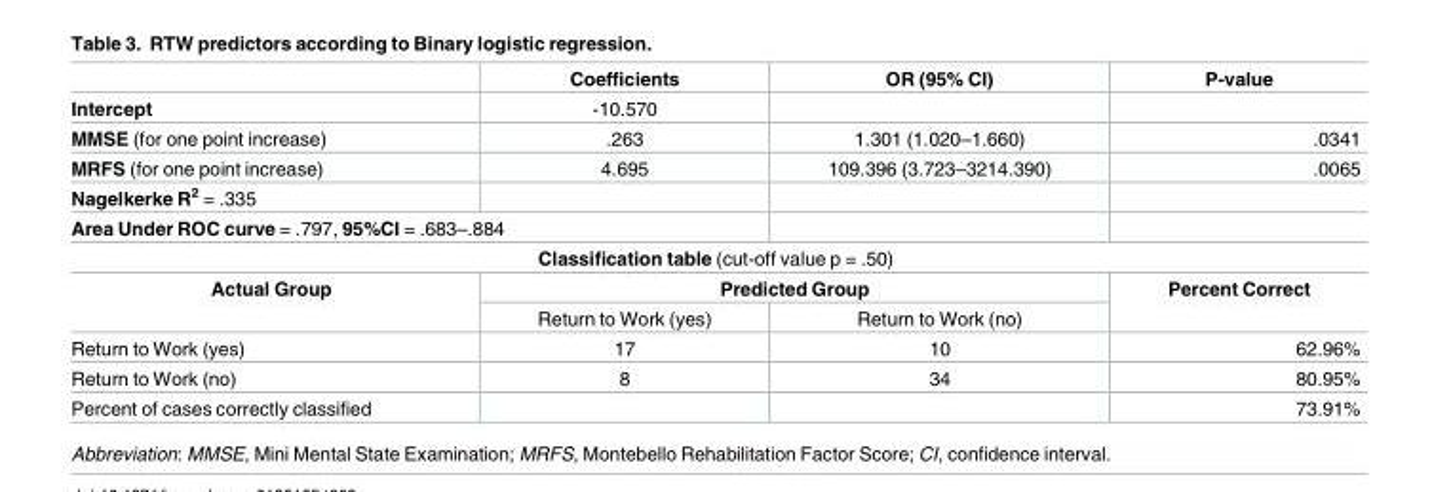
<table><thead><tr><td></td><td>Coefficients</td><td>OR (95% CI)</td><td>P-value</td></tr></thead><tbody><tr><td>Intercept</td><td>-10.570</td><td></td><td></td></tr><tr><td>MMSE (for one point increase)</td><td>.263</td><td>1.301 (1.020–1.660)</td><td>.0341</td></tr><tr><td>MRFS (for one point increase)</td><td>4.695</td><td>109.396 (3.723–3214.390)</td><td>.0065</td></tr><tr><td colspan="4">Nagelkerke R<sup>2</sup> = .335</td></tr><tr><td colspan="4">Area Under ROC curve = .797, 95%CI = .683–.884</td></tr><tr><td colspan="4">Classification table (cut-off value p = .50)</td></tr><tr><td rowspan="2">Actual Group</td><td colspan="2">Predicted Group</td><td rowspan="2">Percent Correct</td></tr><tr><td>Return to Work (yes)</td><td>Return to Work (no)</td></tr><tr><td>Return to Work (yes)</td><td>17</td><td>10</td><td>62.96%</td></tr><tr><td>Return to Work (no)</td><td>8</td><td>34</td><td>80.95%</td></tr><tr><td>Percent of cases correctly classified</td><td></td><td></td><td>73.91%</td></tr></tbody></table>